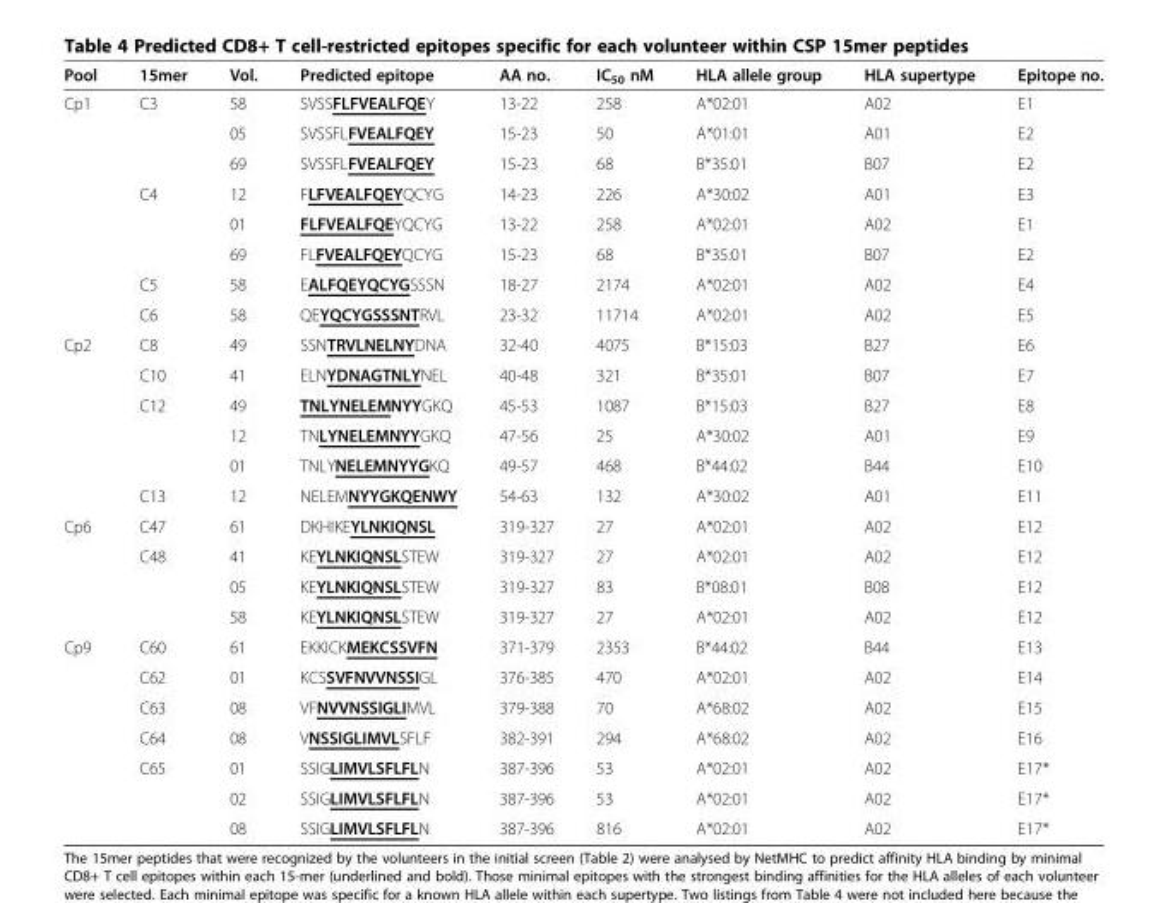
<table><thead><tr><td>Pool</td><td>15mer</td><td>Vol.</td><td>Predicted epitope</td><td>AA no.</td><td>IC<sub>50</sub> nM</td><td>HLA allele group</td><td>HLA supertype</td><td>Epitope no.</td></tr></thead><tbody><tr><td rowspan="8">Cp1</td><td>C3</td><td>58</td><td>SVSSFLFVEALFQEY</td><td>13-22</td><td>258</td><td>A*02:01</td><td>A02</td><td>E1</td></tr><tr><td></td><td>05</td><td>SVSSFLFVEALFQEY</td><td>15-23</td><td>50</td><td>A*01:01</td><td>A01</td><td>E2</td></tr><tr><td></td><td>69</td><td>SVSSFLFVEALFQEY</td><td>15-23</td><td>68</td><td>B*35:01</td><td>B07</td><td>E2</td></tr><tr><td>C4</td><td>12</td><td>FLFVEALFQEYQCYG</td><td>14-23</td><td>226</td><td>A*30:02</td><td>A01</td><td>E3</td></tr><tr><td></td><td>01</td><td>FLFVEALFQEYQCYG</td><td>13-22</td><td>258</td><td>A*02:01</td><td>A02</td><td>E1</td></tr><tr><td></td><td>69</td><td>FLFVEALFQEYQCYG</td><td>15-23</td><td>68</td><td>B*35:01</td><td>B07</td><td>E2</td></tr><tr><td>C5</td><td>58</td><td>EALFQEYQCYGSSSN</td><td>18-27</td><td>2174</td><td>A*02:01</td><td>A02</td><td>E4</td></tr><tr><td>C6</td><td>58</td><td>QEYQCYGSSSNTRVL</td><td>23-32</td><td>11714</td><td>A*02:01</td><td>A02</td><td>E5</td></tr><tr><td rowspan="6">Cp2</td><td>C8</td><td>49</td><td>SSNTRVLNELNYDNA</td><td>32-40</td><td>4075</td><td>B*15:03</td><td>B27</td><td>E6</td></tr><tr><td>C10</td><td>41</td><td>ELNYDNAGTNLYNEL</td><td>40-48</td><td>321</td><td>B*35:01</td><td>B07</td><td>E7</td></tr><tr><td>C12</td><td>49</td><td>TNLYNELEMNYYGKQ</td><td>45-53</td><td>1087</td><td>B*15:03</td><td>B27</td><td>E8</td></tr><tr><td></td><td>12</td><td>TNLYNELEMNYYGKQ</td><td>47-56</td><td>25</td><td>A*30:02</td><td>A01</td><td>E9</td></tr><tr><td></td><td>01</td><td>TNLYNELEMNYYGKQ</td><td>49-57</td><td>468</td><td>B*44:02</td><td>B44</td><td>E10</td></tr><tr><td>C13</td><td>12</td><td>NELEMNYYGKQENWY</td><td>54-63</td><td>132</td><td>A*30:02</td><td>A01</td><td>E11</td></tr><tr><td rowspan="4">Cp6</td><td>C47</td><td>61</td><td>DKHIKEYLNKIQNSL</td><td>319-327</td><td>27</td><td>A*02:01</td><td>A02</td><td>E12</td></tr><tr><td>C48</td><td>41</td><td>KEYLNKIQNSLSTEW</td><td>319-327</td><td>27</td><td>A*02:01</td><td>A02</td><td>E12</td></tr><tr><td></td><td>05</td><td>KEYLNKIQNSLSTEW</td><td>319-327</td><td>83</td><td>B*08:01</td><td>B08</td><td>E12</td></tr><tr><td></td><td>58</td><td>KEYLNKIQNSLSTEW</td><td>319-327</td><td>27</td><td>A*02:01</td><td>A02</td><td>E12</td></tr><tr><td rowspan="7">Cp9</td><td>C60</td><td>61</td><td>EKKICKMEKCSSVFN</td><td>371-379</td><td>2353</td><td>B*44:02</td><td>B44</td><td>E13</td></tr><tr><td>C62</td><td>01</td><td>KCSSVFNVVNSSIGL</td><td>376-385</td><td>470</td><td>A*02:01</td><td>A02</td><td>E14</td></tr><tr><td>C63</td><td>08</td><td>VFNVVNSSIGLIMVL</td><td>379-388</td><td>70</td><td>A*68:02</td><td>A02</td><td>E15</td></tr><tr><td>C64</td><td>08</td><td>VNSSIGLIMVLSFLF</td><td>382-391</td><td>294</td><td>A*68:02</td><td>A02</td><td>E16</td></tr><tr><td>C65</td><td>01</td><td>SSIGLIMVLSFLFLN</td><td>387-396</td><td>53</td><td>A*02:01</td><td>A02</td><td>E17*</td></tr><tr><td></td><td>02</td><td>SSIGLIMVLSFLFLN</td><td>387-396</td><td>53</td><td>A*02:01</td><td>A02</td><td>E17*</td></tr><tr><td></td><td>08</td><td>SSIGLIMVLSFLFLN</td><td>387-396</td><td>816</td><td>A*02:01</td><td>A02</td><td>E17*</td></tr></tbody></table>